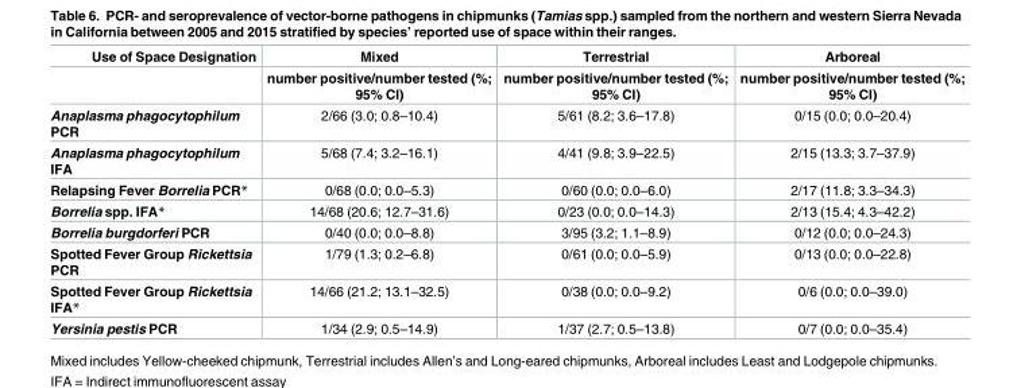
<table><thead><tr><td rowspan="2">Use of Space Designation</td><td rowspan="2">Mixed number positive/number tested (%; 95% CI)</td><td rowspan="2">Terrestrial number positive/number tested (%; 95% CI)</td><td rowspan="2">Arboreal number positive/number tested (%; 95% CI)</td></tr><tr></tr></thead><tbody><tr><td>Anaplasma phagocytophilum PCR</td><td>2/66 (3.0; 0.8–10.4)</td><td>5/61 (8.2; 3.6–17.8)</td><td>0/15 (0.0; 0.0–20.4)</td></tr><tr><td>Anaplasma phagocytophilum IFA</td><td>5/68 (7.4; 3.2–16.1)</td><td>4/41 (9.8; 3.9–22.5)</td><td>2/15 (13.3; 3.7–37.9)</td></tr><tr><td>Relapsing Fever Borrelia PCR*</td><td>0/68 (0.0; 0.0–5.3)</td><td>0/60 (0.0; 0.0–6.0)</td><td>2/17 (11.8; 3.3–34.3)</td></tr><tr><td>Borrelia spp. IFA*</td><td>14/68 (20.6; 12.7–31.6)</td><td>0/23 (0.0; 0.0–14.3)</td><td>2/13 (15.4; 4.3–42.2)</td></tr><tr><td>Borrelia burgdorferi PCR</td><td>0/40 (0.0; 0.0–8.8)</td><td>3/95 (3.2; 1.1–8.9)</td><td>0/12 (0.0; 0.0–24.3)</td></tr><tr><td>Spotted Fever Group Rickettsia PCR</td><td>1/79 (1.3; 0.2–6.8)</td><td>0/61 (0.0; 0.0–5.9)</td><td>0/13 (0.0; 0.0–22.8)</td></tr><tr><td>Spotted Fever Group Rickettsia IFA*</td><td>14/66 (21.2; 13.1–32.5)</td><td>0/38 (0.0; 0.0–9.2)</td><td>0/6 (0.0; 0.0–39.0)</td></tr><tr><td>Yersinia pestis PCR</td><td>1/34 (2.9; 0.5–14.9)</td><td>1/37 (2.7; 0.5–13.8)</td><td>0/7 (0.0; 0.0–35.4)</td></tr></tbody></table>